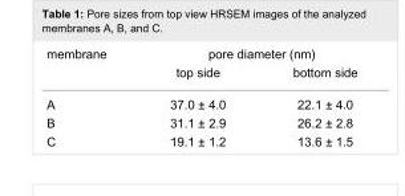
<table><tbody><tr><td rowspan="2">membrane</td><td colspan="2">pore diameter (nm)</td></tr><tr><td>top side</td><td>bottom side</td></tr><tr><td>A</td><td>37.0 ± 4.0</td><td>22.1 ± 4.0</td></tr><tr><td>B</td><td>31.1 ± 2.9</td><td>26.2 ± 2.8</td></tr><tr><td>C</td><td>19.1 ± 1.2</td><td>13.6 ± 1.5</td></tr></tbody></table>